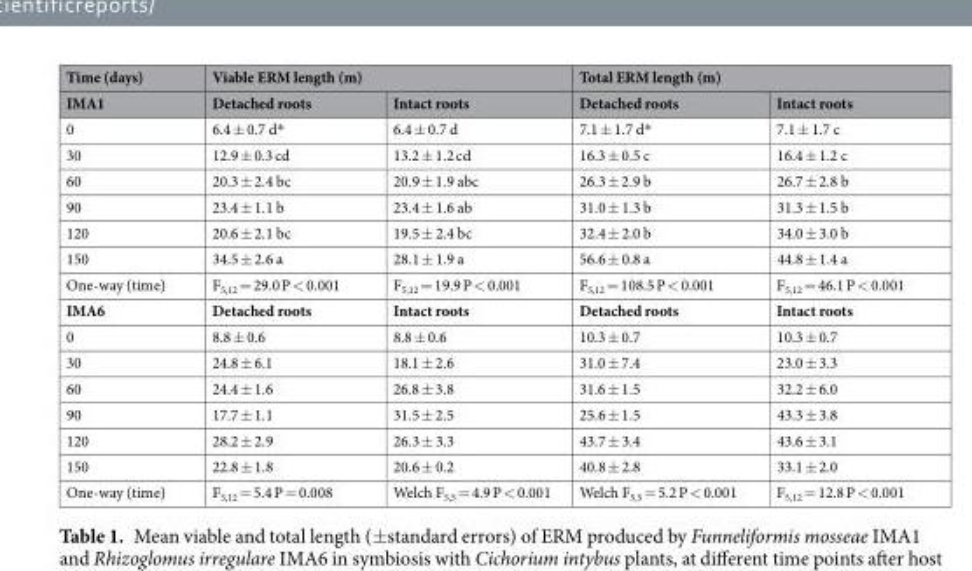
<table><thead><tr><td rowspan="2">Time (days) IMA1</td><td colspan="2">Viable ERM length (m)</td><td colspan="2">Total ERM length (m)</td></tr><tr><td>Detached roots</td><td>Intact roots</td><td>Detached roots</td><td>Intact roots</td></tr></thead><tbody><tr><td>0</td><td>6.4 ± 0.7 d*</td><td>6.4 ± 0.7 d</td><td>7.1 ± 1.7 d*</td><td>7.1 ± 1.7 c</td></tr><tr><td>30</td><td>12.9 ± 0.3 cd</td><td>13.2 ± 1.2 cd</td><td>16.3 ± 0.5 c</td><td>16.4 ± 1.2 c</td></tr><tr><td>60</td><td>20.3 ± 2.4 bc</td><td>20.9 ± 1.9 abc</td><td>26.3 ± 2.9 b</td><td>26.7 ± 2.8 b</td></tr><tr><td>90</td><td>23.4 ± 1.1 b</td><td>23.4 ± 1.6 ab</td><td>31.0 ± 1.3 b</td><td>31.3 ± 1.5 b</td></tr><tr><td>120</td><td>20.6 ± 2.1 bc</td><td>19.5 ± 2.4 bc</td><td>32.4 ± 2.0 b</td><td>34.0 ± 3.0 b</td></tr><tr><td>150</td><td>34.5 ± 2.6 a</td><td>28.1 ± 1.9 a</td><td>56.6 ± 0.8 a</td><td>44.8 ± 1.4 a</td></tr><tr><td>One-way (time)</td><td>F<sub>5,12</sub> = 29.0 P &lt; 0.001</td><td>F<sub>5,12</sub> = 19.9 P &lt; 0.001</td><td>F<sub>5,12</sub> = 108.5 P &lt; 0.001</td><td>F<sub>5,12</sub> = 46.1 P &lt; 0.001</td></tr><tr><td>IMA6</td><td>Detached roots</td><td>Intact roots</td><td>Detached roots</td><td>Intact roots</td></tr><tr><td>0</td><td>8.8 ± 0.6</td><td>8.8 ± 0.6</td><td>10.3 ± 0.7</td><td>10.3 ± 0.7</td></tr><tr><td>30</td><td>24.8 ± 6.1</td><td>18.1 ± 2.6</td><td>31.0 ± 7.4</td><td>23.0 ± 3.3</td></tr><tr><td>60</td><td>24.4 ± 1.6</td><td>26.8 ± 3.8</td><td>31.6 ± 1.5</td><td>32.2 ± 6.0</td></tr><tr><td>90</td><td>17.7 ± 1.1</td><td>31.5 ± 2.5</td><td>25.6 ± 1.5</td><td>43.3 ± 3.8</td></tr><tr><td>120</td><td>28.2 ± 2.9</td><td>26.3 ± 3.3</td><td>43.7 ± 3.4</td><td>43.6 ± 3.1</td></tr><tr><td>150</td><td>22.8 ± 1.8</td><td>20.6 ± 0.2</td><td>40.8 ± 2.8</td><td>33.1 ± 2.0</td></tr><tr><td>One-way (time)</td><td>F<sub>5,12</sub> = 5.4 P = 0.008</td><td>Welch F<sub>5,5</sub> = 4.9 P &lt; 0.001</td><td>Welch F<sub>5,5</sub> = 5.2 P &lt; 0.001</td><td>F<sub>5,12</sub> = 12.8 P &lt; 0.001</td></tr></tbody></table>